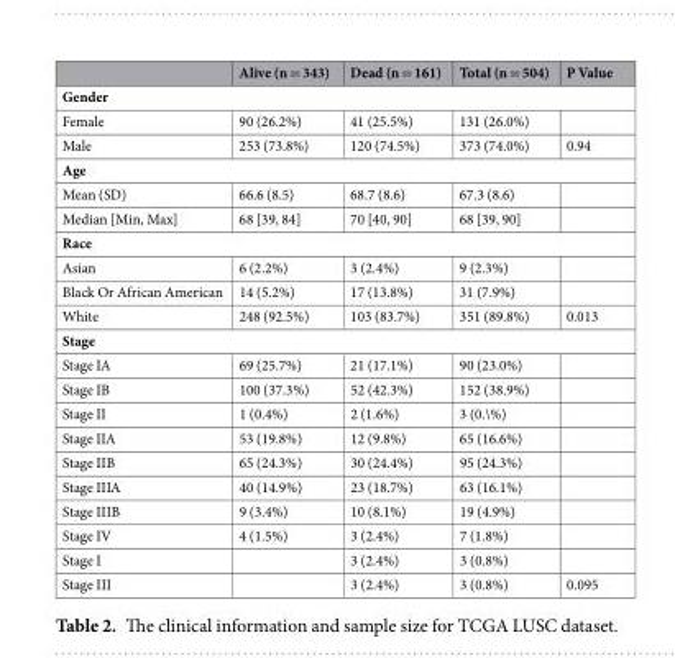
<table><thead><tr><td></td><td>Alive (n = 343)</td><td>Dead (n = 161)</td><td>Total (n = 504)</td><td>P Value</td></tr></thead><tbody><tr><td colspan="5">Gender</td></tr><tr><td>Female</td><td>90 (26.2%)</td><td>41 (25.5%)</td><td>131 (26.0%)</td><td></td></tr><tr><td>Male</td><td>253 (73.8%)</td><td>120 (74.5%)</td><td>373 (74.0%)</td><td>0.94</td></tr><tr><td colspan="5">Age</td></tr><tr><td>Mean (SD)</td><td>66.6 (8.5)</td><td>68.7 (8.6)</td><td>67.3 (8.6)</td><td></td></tr><tr><td>Median [Min, Max]</td><td>68 [39, 84]</td><td>70 [40, 90]</td><td>68 [39, 90]</td><td></td></tr><tr><td colspan="5">Race</td></tr><tr><td>Asian</td><td>6 (2.2%)</td><td>3 (2.4%)</td><td>9 (2.3%)</td><td></td></tr><tr><td>Black Or African American</td><td>14 (5.2%)</td><td>17 (13.8%)</td><td>31 (7.9%)</td><td></td></tr><tr><td>White</td><td>248 (92.5%)</td><td>103 (83.7%)</td><td>351 (89.8%)</td><td>0.013</td></tr><tr><td colspan="5">Stage</td></tr><tr><td>Stage IA</td><td>69 (25.7%)</td><td>21 (17.1%)</td><td>90 (23.0%)</td><td></td></tr><tr><td>Stage IB</td><td>100 (37.3%)</td><td>52 (42.3%)</td><td>152 (38.9%)</td><td></td></tr><tr><td>Stage II</td><td>1 (0.4%)</td><td>2 (1.6%)</td><td>3 (0.\%)</td><td></td></tr><tr><td>Stage IIA</td><td>53 (19.8%)</td><td>12 (9.8%)</td><td>65 (16.6%)</td><td></td></tr><tr><td>Stage IIB</td><td>65 (24.3%)</td><td>30 (24.4%)</td><td>95 (24.3%)</td><td></td></tr><tr><td>Stage IIIA</td><td>40 (14.9%)</td><td>23 (18.7%)</td><td>63 (16.1%)</td><td></td></tr><tr><td>Stage IIIB</td><td>9 (3.4%)</td><td>10 (8.1%)</td><td>19 (4.9%)</td><td></td></tr><tr><td>Stage IV</td><td>4 (1.5%)</td><td>3 (2.4%)</td><td>7 (1.8%)</td><td></td></tr><tr><td>Stage I</td><td></td><td>3 (2.4%)</td><td>3 (0.8%)</td><td></td></tr><tr><td>Stage III</td><td></td><td>3 (2.4%)</td><td>3 (0.8%)</td><td>0.095</td></tr></tbody></table>